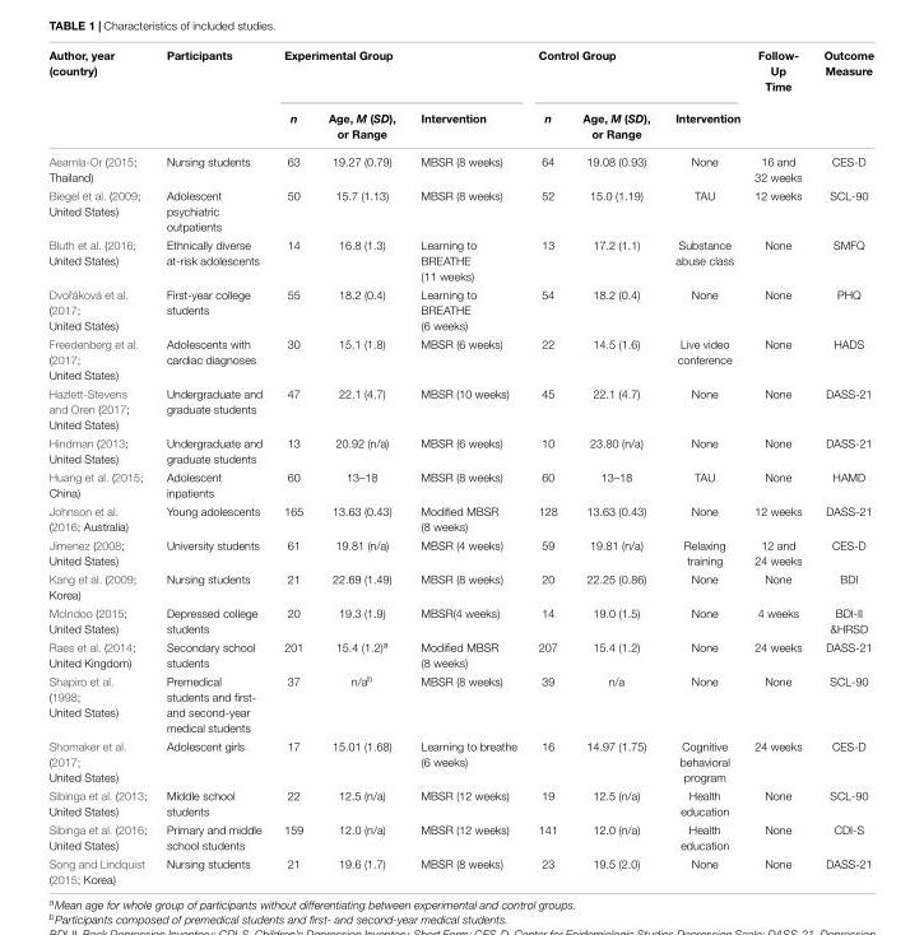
<table><thead><tr><td rowspan="2">Author, year (country)</td><td rowspan="2">Participants</td><td colspan="3">Experimental Group</td><td colspan="3">Control Group</td><td rowspan="2">Follow- Up Time</td><td rowspan="2">Outcome Measure</td></tr><tr><td>n</td><td>Age, M (SD), or Range</td><td>Intervention</td><td>n</td><td>Age, M (SD), or Range</td><td>Intervention</td></tr></thead><tbody><tr><td>Aeamla-Or (2015; Thailand)</td><td>Nursing students</td><td>63</td><td>19.27 (0.79)</td><td>MBSR (8 weeks)</td><td>64</td><td>19.08 (0.93)</td><td>None</td><td>16 and 32 weeks</td><td>CES-D</td></tr><tr><td>Biegel et al. (2009; United States)</td><td>Adolescent psychiatric outpatients</td><td>50</td><td>15.7 (1.13)</td><td>MBSR (8 weeks)</td><td>52</td><td>15.0 (1.19)</td><td>TAU</td><td>12 weeks</td><td>SCL-90</td></tr><tr><td>Bluth et al. (2016; United States)</td><td>Ethnically diverse at-risk adolescents</td><td>14</td><td>16.8 (1.3)</td><td>Learning to BREATHE (11 weeks)</td><td>13</td><td>17.2 (1.1)</td><td>Substance abuse class</td><td>None</td><td>SMFQ</td></tr><tr><td>Dvoˇráková et al. (2017; United States)</td><td>First-year college students</td><td>55</td><td>18.2 (0.4)</td><td>Learning to BREATHE (6 weeks)</td><td>54</td><td>18.2 (0.4)</td><td>None</td><td>None</td><td>PHQ</td></tr><tr><td>Freedenberg et al. (2017; United States)</td><td>Adolescents with cardiac diagnoses</td><td>30</td><td>15.1 (1.8)</td><td>MBSR (6 weeks)</td><td>22</td><td>14.5 (1.6)</td><td>Live video conference</td><td>None</td><td>HADS</td></tr><tr><td>Hazlett-Stevens and Oren (2017; United States)</td><td>Undergraduate and graduate students</td><td>47</td><td>22.1 (4.7)</td><td>MBSR (10 weeks)</td><td>45</td><td>22.1 (4.7)</td><td>None</td><td>None</td><td>DASS-21</td></tr><tr><td>Hindman (2013; United States)</td><td>Undergraduate and graduate students</td><td>13</td><td>20.92 (n/a)</td><td>MBSR (6 weeks)</td><td>10</td><td>23.80 (n/a)</td><td>None</td><td>None</td><td>DASS-21</td></tr><tr><td>Huang et al. (2015; China)</td><td>Adolescent inpatients</td><td>60</td><td>13–18</td><td>MBSR (8 weeks)</td><td>60</td><td>13–18</td><td>TAU</td><td>None</td><td>HAMD</td></tr><tr><td>Johnson et al. (2016; Australia)</td><td>Young adolescents</td><td>165</td><td>13.63 (0.43)</td><td>Modified MBSR (8 weeks)</td><td>128</td><td>13.63 (0.43)</td><td>None</td><td>12 weeks</td><td>DASS-21</td></tr><tr><td>Jimenez (2008; United States)</td><td>University students</td><td>61</td><td>19.81 (n/a)</td><td>MBSR (4 weeks)</td><td>59</td><td>19.81 (n/a)</td><td>Relaxing training</td><td>12 and 24 weeks</td><td>CES-D</td></tr><tr><td>Kang et al. (2009; Korea)</td><td>Nursing students</td><td>21</td><td>22.69 (1.49)</td><td>MBSR (8 weeks)</td><td>20</td><td>22.25 (0.86)</td><td>None</td><td>None</td><td>BDI</td></tr><tr><td>McIndoo (2015; United States)</td><td>Depressed college students</td><td>20</td><td>19.3 (1.9)</td><td>MBSR(4 weeks)</td><td>14</td><td>19.0 (1.5)</td><td>None</td><td>4 weeks</td><td>BDI-II &amp;HRSD</td></tr><tr><td>Raes et al. (2014; United Kingdom)</td><td>Secondary school students</td><td>201</td><td>15.4 (1.2)<sup>a</sup></td><td>Modified MBSR (8 weeks)</td><td>207</td><td>15.4 (1.2)</td><td>None</td><td>24 weeks</td><td>DASS-21</td></tr><tr><td>Shapiro et al. (1998; United States)</td><td>Premedical students and first- and second-year medical students</td><td>37</td><td>n/a<sup>b</sup></td><td>MBSR (8 weeks)</td><td>39</td><td>n/a</td><td>None</td><td>None</td><td>SCL-90</td></tr><tr><td>Shomaker et al. (2017; United States)</td><td>Adolescent girls</td><td>17</td><td>15.01 (1.68)</td><td>Learning to breathe (6 weeks)</td><td>16</td><td>14.97 (1.75)</td><td>Cognitive behavioral program</td><td>24 weeks</td><td>CES-D</td></tr><tr><td>Sibinga et al. (2013; United States)</td><td>Middle school students</td><td>22</td><td>12.5 (n/a)</td><td>MBSR (12 weeks)</td><td>19</td><td>12.5 (n/a)</td><td>Health education</td><td>None</td><td>SCL-90</td></tr><tr><td>Sibinga et al. (2016; United States)</td><td>Primary and middle school students</td><td>159</td><td>12.0 (n/a)</td><td>MBSR (12 weeks)</td><td>141</td><td>12.0 (n/a)</td><td>Health education</td><td>None</td><td>CDI-S</td></tr><tr><td>Song and Lindquist (2015; Korea)</td><td>Nursing students</td><td>21</td><td>19.6 (1.7)</td><td>MBSR (8 weeks)</td><td>23</td><td>19.5 (2.0)</td><td>None</td><td>None</td><td>DASS-21</td></tr></tbody></table>